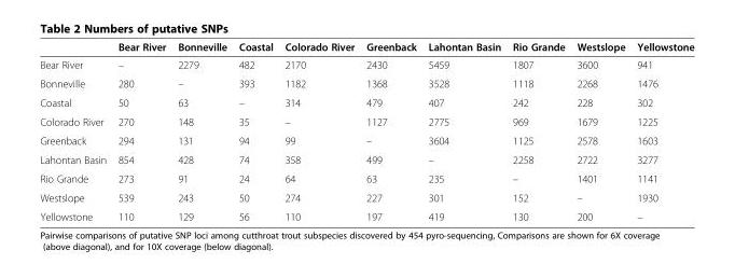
<table><thead><tr><td></td><td>Bear River</td><td>Bonneville</td><td>Coastal</td><td>Colorado River</td><td>Greenback</td><td>Lahontan Basin</td><td>Rio Grande</td><td>Westslope</td><td>Yellowstone</td></tr></thead><tbody><tr><td>Bear River</td><td>–</td><td>2279</td><td>482</td><td>2170</td><td>2430</td><td>5459</td><td>1807</td><td>3600</td><td>941</td></tr><tr><td>Bonneville</td><td>280</td><td>–</td><td>393</td><td>1182</td><td>1368</td><td>3528</td><td>1118</td><td>2268</td><td>1476</td></tr><tr><td>Coastal</td><td>50</td><td>63</td><td>–</td><td>314</td><td>479</td><td>407</td><td>242</td><td>228</td><td>302</td></tr><tr><td>Colorado River</td><td>270</td><td>148</td><td>35</td><td>–</td><td>1127</td><td>2775</td><td>969</td><td>1679</td><td>1225</td></tr><tr><td>Greenback</td><td>294</td><td>131</td><td>94</td><td>99</td><td>–</td><td>3604</td><td>1125</td><td>2578</td><td>1603</td></tr><tr><td>Lahontan Basin</td><td>854</td><td>428</td><td>74</td><td>358</td><td>499</td><td>–</td><td>2258</td><td>2722</td><td>3277</td></tr><tr><td>Rio Grande</td><td>273</td><td>91</td><td>24</td><td>64</td><td>63</td><td>235</td><td>–</td><td>1401</td><td>1141</td></tr><tr><td>Westslope</td><td>539</td><td>243</td><td>50</td><td>274</td><td>227</td><td>301</td><td>152</td><td>–</td><td>1930</td></tr><tr><td>Yellowstone</td><td>110</td><td>129</td><td>56</td><td>110</td><td>197</td><td>419</td><td>130</td><td>200</td><td>–</td></tr></tbody></table>